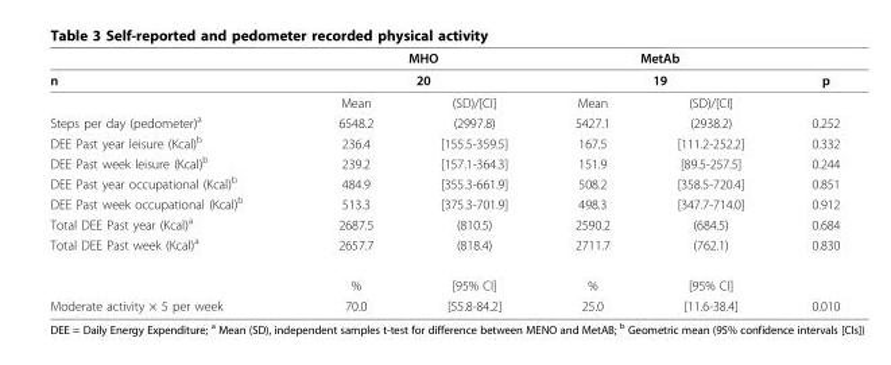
<table><thead><tr><td rowspan="3">n</td><td rowspan="2" colspan="2">MHO 20</td><td rowspan="2" colspan="2">MetAb 19</td><td rowspan="3">p</td></tr><tr></tr><tr><td>Mean</td><td>(SD)/[CI]</td><td>Mean</td><td>(SD)/[CI]</td></tr></thead><tbody><tr><td>Steps per day (pedometer)<sup>a</sup></td><td>6548.2</td><td>(2997.8)</td><td>5427.1</td><td>(2938.2)</td><td>0.252</td></tr><tr><td>DEE Past year leisure (Kcal)<sup>b</sup></td><td>236.4</td><td>[155.5-359.5]</td><td>167.5</td><td>[111.2-252.2]</td><td>0.332</td></tr><tr><td>DEE Past week leisure (Kcal)<sup>b</sup></td><td>239.2</td><td>[157.1-364.3]</td><td>151.9</td><td>[89.5-257.5]</td><td>0.244</td></tr><tr><td>DEE Past year occupational (Kcal)<sup>b</sup></td><td>484.9</td><td>[355.3-661.9]</td><td>508.2</td><td>[358.5-720.4]</td><td>0.851</td></tr><tr><td>DEE Past week occupational (Kcal)<sup>b</sup></td><td>513.3</td><td>[375.3-701.9]</td><td>498.3</td><td>[347.7-714.0]</td><td>0.912</td></tr><tr><td>Total DEE Past year (Kcal)<sup>a</sup></td><td>2687.5</td><td>(810.5)</td><td>2590.2</td><td>(684.5)</td><td>0.684</td></tr><tr><td rowspan="2">Total DEE Past week (Kcal)<sup>a</sup></td><td>2657.7</td><td>(818.4)</td><td>2711.7</td><td>(762.1)</td><td>0.830</td></tr><tr><td>%</td><td>[95% CI]</td><td>%</td><td>[95% CI]</td><td></td></tr><tr><td>Moderate activity × 5 per week</td><td>70.0</td><td>[55.8-84.2]</td><td>25.0</td><td>[11.6-38.4]</td><td>0.010</td></tr></tbody></table>